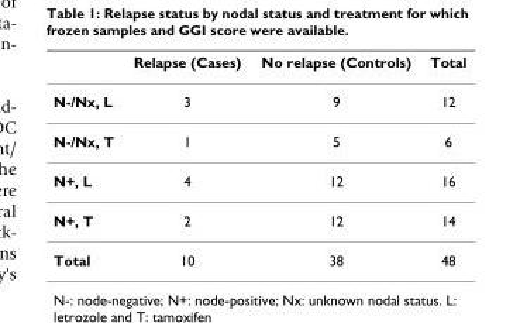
<table><thead><tr><td></td><td>Relapse (Cases)</td><td>No relapse (Controls)</td><td>Total</td></tr></thead><tbody><tr><td>N-/Nx, L</td><td>3</td><td>9</td><td>12</td></tr><tr><td>N-/Nx, T</td><td>1</td><td>5</td><td>6</td></tr><tr><td>N+, L</td><td>4</td><td>12</td><td>16</td></tr><tr><td>N+, T</td><td>2</td><td>12</td><td>14</td></tr><tr><td>Total</td><td>10</td><td>38</td><td>48</td></tr></tbody></table>